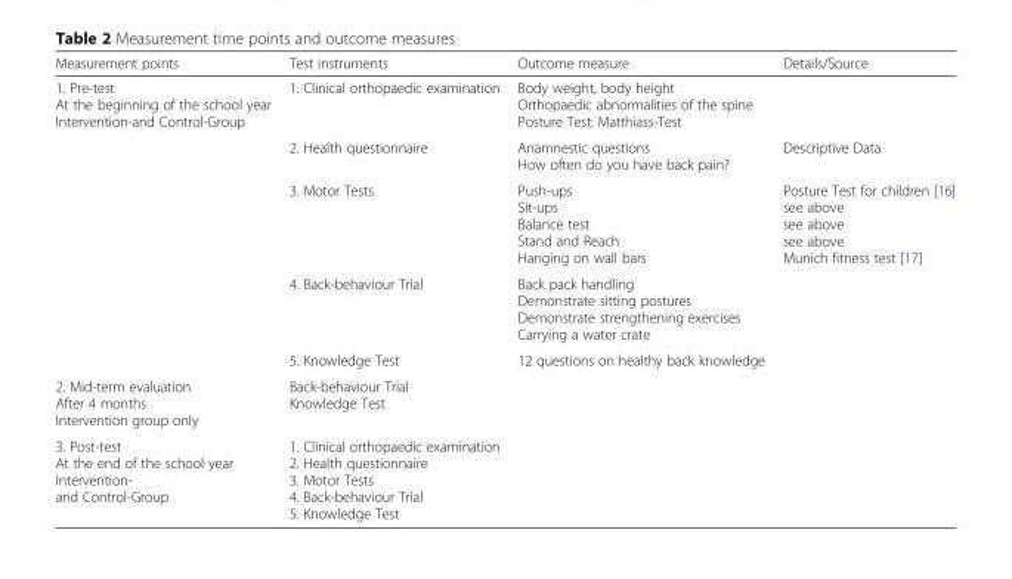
<table><thead><tr><td>Measurement points</td><td>Test instruments</td><td>Outcome measure</td><td>Details/Source</td></tr></thead><tbody><tr><td rowspan="5">1. Pre-test At the beginning of the school year Intervention-and Control-Group</td><td>1. Clinical orthopaedic examination</td><td>Body weight, body height Orthopaedic abnormalities of the spine Posture Test: Matthiass-Test</td><td></td></tr><tr><td>2. Health questionnaire</td><td>Anamnestic questions How often do you have back pain?</td><td>Descriptive Data</td></tr><tr><td>3. Motor Tests</td><td>Push-ups Sit-ups Balance test Stand and Reach Hanging on wall bars</td><td>Posture Test for children [16] see above see above see above Munich fitness test [17]</td></tr><tr><td>4. Back-behaviour Trial</td><td>Back pack handling Demonstrate sitting postures Demonstrate strengthening exercises Carrying a water crate</td><td></td></tr><tr><td>5. Knowledge Test</td><td>12 questions on healthy back knowledge</td><td></td></tr><tr><td>2. Mid-term evaluation After 4 months Intervention group only</td><td>Back-behaviour Trial Knowledge Test</td><td></td><td></td></tr><tr><td>3. Post-test At the end of the school year Intervention- and Control-Group</td><td>1. Clinical orthopaedic examination 2. Health questionnaire 3. Motor Tests 4. Back-behaviour Trial 5. Knowledge Test</td><td></td><td></td></tr></tbody></table>